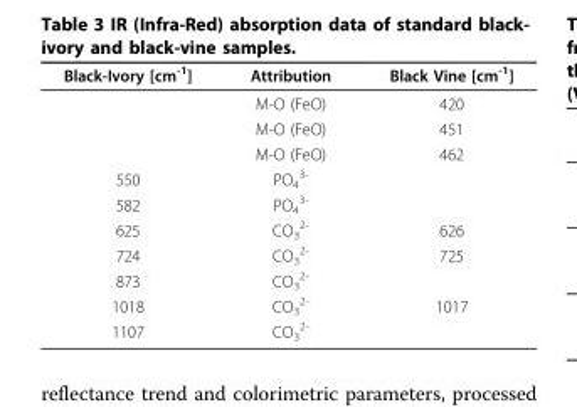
<table><thead><tr><td>Black-Ivory [cm<sup>-1</sup>]</td><td>Attribution</td><td>Black Vine [cm<sup>-1</sup>]</td></tr></thead><tbody><tr><td></td><td>M-O (FeO)</td><td>420</td></tr><tr><td></td><td>M-O (FeO)</td><td>451</td></tr><tr><td></td><td>M-O (FeO)</td><td>462</td></tr><tr><td>550</td><td>PO<sub>4</sub> <sup>3-</sup></td><td></td></tr><tr><td>582</td><td>PO<sub>4</sub> <sup>3-</sup></td><td></td></tr><tr><td>625</td><td>CO<sub>3</sub> <sup>2-</sup></td><td>626</td></tr><tr><td>724</td><td>CO<sub>3</sub> <sup>2-</sup></td><td>725</td></tr><tr><td>873</td><td>CO<sub>3</sub> <sup>2-</sup></td><td></td></tr><tr><td>1018</td><td>CO<sub>3</sub> <sup>2-</sup></td><td>1017</td></tr><tr><td>1107</td><td>CO<sub>3</sub> <sup>2-</sup></td><td></td></tr></tbody></table>